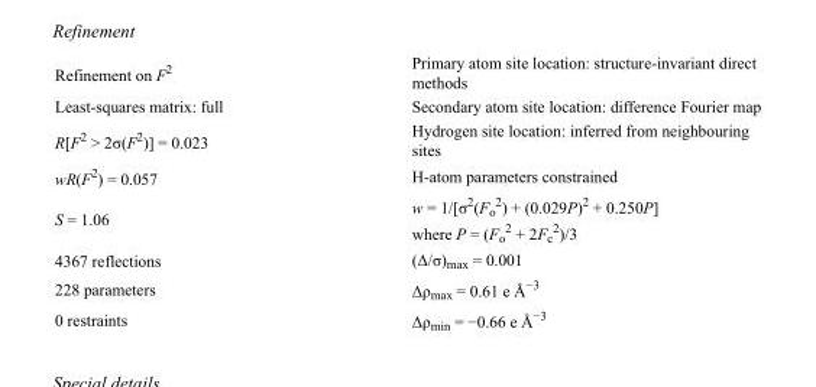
<table><tbody><tr><td>Refinement on F<sup>2</sup></td><td>Primary atom site location: structure-invariant direct methods</td></tr><tr><td>Least-squares matrix: full</td><td>Secondary atom site location: difference Fourier map</td></tr><tr><td>R[F<sup>2</sup> &gt; 2σ(F<sup>2</sup>)] = 0.023</td><td>Hydrogen site location: inferred from neighbouring sites</td></tr><tr><td>wR(F<sup>2</sup>) = 0.057</td><td>H-atom parameters constrained</td></tr><tr><td>S = 1.06</td><td>w = 1/[σ<sup>2</sup>(F<sub>o</sub> <sup>2</sup>) + (0.029P)<sup>2</sup> + 0.250P] where P = (F<sub>o</sub> <sup>2</sup> + 2F<sub>c</sub> <sup>2</sup>)/3</td></tr><tr><td>4367 reflections</td><td>(Δ/σ)<sub>max</sub> = 0.001</td></tr><tr><td>228 parameters</td><td>Δρ<sub>max</sub> = 0.61 e Å<sup>−3</sup></td></tr><tr><td>0 restraints</td><td>Δρ<sub>min</sub> = −0.66 e Å<sup>−3</sup></td></tr></tbody></table>